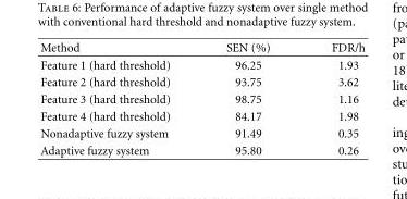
<table><thead><tr><td>Method</td><td>SEN (%)</td><td>FDR/h</td></tr></thead><tbody><tr><td>Feature 1 (hard threshold)</td><td>96.25</td><td>1.93</td></tr><tr><td>Feature 2 (hard threshold)</td><td>93.75</td><td>3.62</td></tr><tr><td>Feature 3 (hard threshold)</td><td>98.75</td><td>1.16</td></tr><tr><td>Feature 4 (hard threshold)</td><td>84.17</td><td>1.98</td></tr><tr><td>Nonadaptive fuzzy system</td><td>91.49</td><td>0.35</td></tr><tr><td>Adaptive fuzzy system</td><td>95.80</td><td>0.26</td></tr></tbody></table>